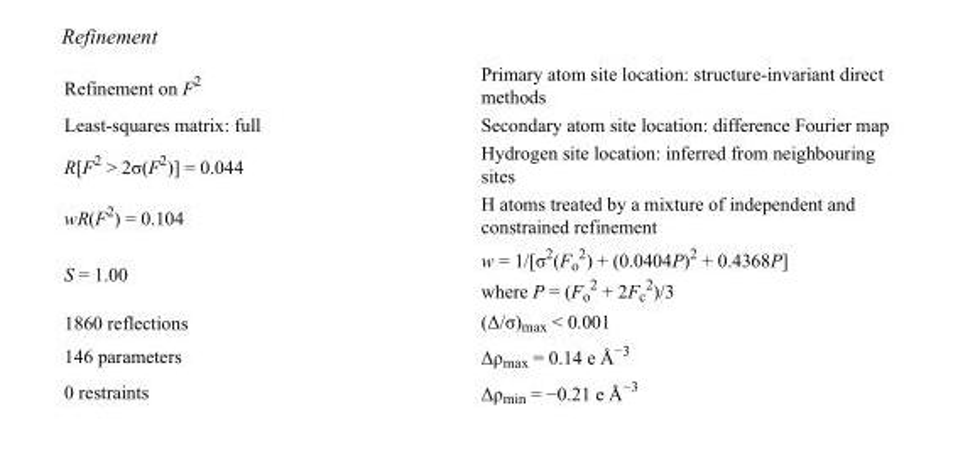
<table><tbody><tr><td>Refinement on F<sup>2</sup></td><td>Primary atom site location: structure-invariant direct methods</td></tr><tr><td>Least-squares matrix: full</td><td>Secondary atom site location: difference Fourier map</td></tr><tr><td>R[F<sup>2</sup> &gt; 2σ(F<sup>2</sup>)] = 0.044</td><td>Hydrogen site location: inferred from neighbouring sites</td></tr><tr><td>wR(F<sup>2</sup>) = 0.104</td><td>H atoms treated by a mixture of independent and constrained refinement</td></tr><tr><td>S = 1.00</td><td>w = 1/[σ<sup>2</sup>(F<sub>o</sub> <sup>2</sup>) + (0.0404P)<sup>2</sup> + 0.4368P] where P = (F<sub>o</sub> <sup>2</sup> + 2F<sub>c</sub> <sup>2</sup>)/3</td></tr><tr><td>1860 reflections</td><td>(Δ/σ)<sub>max</sub> &lt; 0.001</td></tr><tr><td>146 parameters</td><td>Δρ<sub>max</sub> = 0.14 e Å<sup>−3</sup></td></tr><tr><td>0 restraints</td><td>Δρmin = −0.21 e Å−3</td></tr></tbody></table>